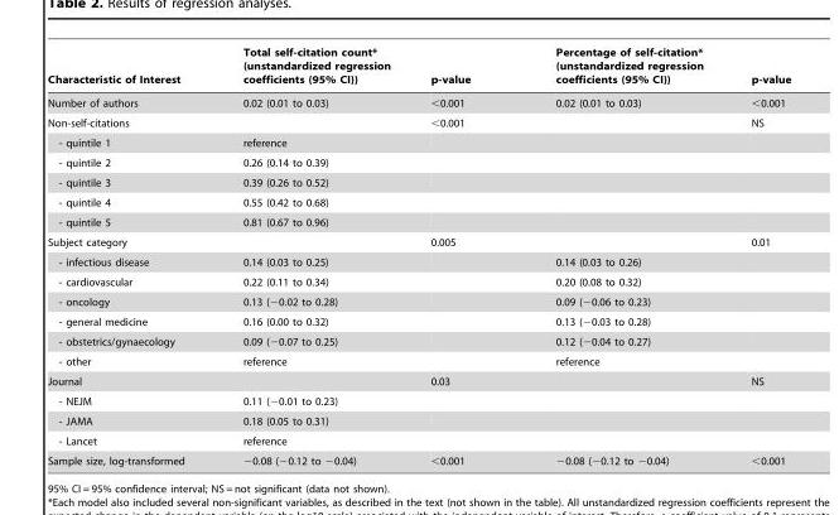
<table><thead><tr><td>Characteristic of Interest</td><td>Total self-citation count* (unstandardized regression coefficients (95% CI))</td><td>p-value</td><td>Percentage of self-citation* (unstandardized regression coefficients (95% CI))</td><td>p-value</td></tr></thead><tbody><tr><td>Number of authors</td><td>0.02 (0.01 to 0.03)</td><td>&lt;0.001</td><td>0.02 (0.01 to 0.03)</td><td>&lt;0.001</td></tr><tr><td>Non-self-citations</td><td></td><td>&lt;0.001</td><td></td><td>NS</td></tr><tr><td>- quintile 1</td><td>reference</td><td></td><td></td><td></td></tr><tr><td>- quintile 2</td><td>0.26 (0.14 to 0.39)</td><td></td><td></td><td></td></tr><tr><td>- quintile 3</td><td>0.39 (0.26 to 0.52)</td><td></td><td></td><td></td></tr><tr><td>- quintile 4</td><td>0.55 (0.42 to 0.68)</td><td></td><td></td><td></td></tr><tr><td>- quintile 5</td><td>0.81 (0.67 to 0.96)</td><td></td><td></td><td></td></tr><tr><td>Subject category</td><td></td><td>0.005</td><td></td><td>0.01</td></tr><tr><td>- infectious disease</td><td>0.14 (0.03 to 0.25)</td><td></td><td>0.14 (0.03 to 0.26)</td><td></td></tr><tr><td>- cardiovascular</td><td>0.22 (0.11 to 0.34)</td><td></td><td>0.20 (0.08 to 0.32)</td><td></td></tr><tr><td>- oncology</td><td>0.13 (−0.02 to 0.28)</td><td></td><td>0.09 (−0.06 to 0.23)</td><td></td></tr><tr><td>- general medicine</td><td>0.16 (0.00 to 0.32)</td><td></td><td>0.13 (−0.03 to 0.28)</td><td></td></tr><tr><td>- obstetrics/gynaecology</td><td>0.09 (−0.07 to 0.25)</td><td></td><td>0.12 (−0.04 to 0.27)</td><td></td></tr><tr><td>- other</td><td>reference</td><td></td><td>reference</td><td></td></tr><tr><td>Journal</td><td></td><td>0.03</td><td></td><td>NS</td></tr><tr><td>- NEJM</td><td>0.11 (−0.01 to 0.23)</td><td></td><td></td><td></td></tr><tr><td>- JAMA</td><td>0.18 (0.05 to 0.31)</td><td></td><td></td><td></td></tr><tr><td>- Lancet</td><td>reference</td><td></td><td></td><td></td></tr><tr><td>Sample size, log-transformed</td><td>−0.08 (−0.12 to −0.04)</td><td>&lt;0.001</td><td>−0.08 (−0.12 to −0.04)</td><td>&lt;0.001</td></tr></tbody></table>